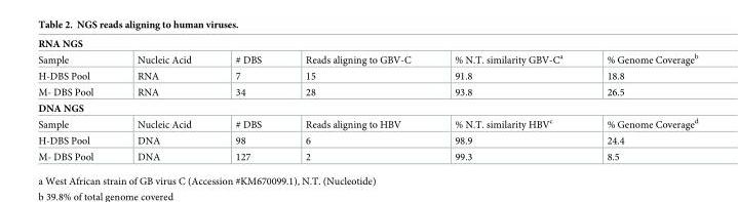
<table><tbody><tr><td colspan="6">RNA NGS</td></tr><tr><td>Sample</td><td>Nucleic Acid</td><td># DBS</td><td>Reads aligning to GBV-C</td><td>% N.T. similarity GBV-C<sup>a</sup></td><td>% Genome Coverage<sup>b</sup></td></tr><tr><td>H-DBS Pool</td><td>RNA</td><td>7</td><td>15</td><td>91.8</td><td>18.8</td></tr><tr><td>M- DBS Pool</td><td>RNA</td><td>34</td><td>28</td><td>93.8</td><td>26.5</td></tr><tr><td colspan="6">DNA NGS</td></tr><tr><td>Sample</td><td>Nucleic Acid</td><td># DBS</td><td>Reads aligning to HBV</td><td>% N.T. similarity HBV<sup>c</sup></td><td>% Genome Coverage<sup>d</sup></td></tr><tr><td>H-DBS Pool</td><td>DNA</td><td>98</td><td>6</td><td>98.9</td><td>24.4</td></tr><tr><td>M- DBS Pool</td><td>DNA</td><td>127</td><td>2</td><td>99.3</td><td>8.5</td></tr></tbody></table>